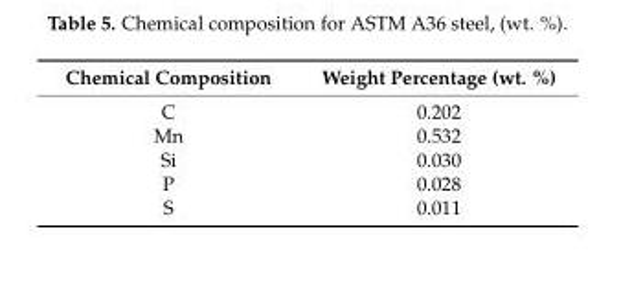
<table><thead><tr><td>Chemical Composition</td><td>Weight Percentage (wt. %)</td></tr></thead><tbody><tr><td>C</td><td>0.202</td></tr><tr><td>Mn</td><td>0.532</td></tr><tr><td>Si</td><td>0.030</td></tr><tr><td>P</td><td>0.028</td></tr><tr><td>S</td><td>0.011</td></tr></tbody></table>